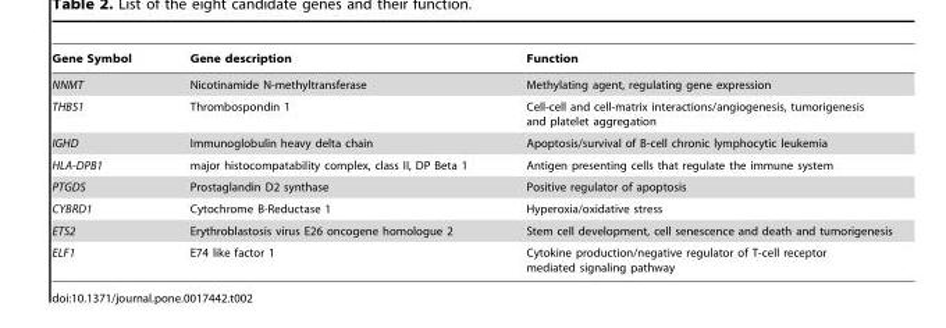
<table><thead><tr><td>Gene Symbol</td><td>Gene description</td><td>Function</td></tr></thead><tbody><tr><td>NNMT</td><td>Nicotinamide N-methyltransferase</td><td>Methylating agent, regulating gene expression</td></tr><tr><td>THBS1</td><td>Thrombospondin 1</td><td>Cell-cell and cell-matrix interactions/angiogenesis, tumorigenesis and platelet aggregation</td></tr><tr><td>IGHD</td><td>Immunoglobulin heavy delta chain</td><td>Apoptosis/survival of B-cell chronic lymphocytic leukemia</td></tr><tr><td>HLA-DPB1</td><td>major histocompatability complex, class II, DP Beta 1</td><td>Antigen presenting cells that regulate the immune system</td></tr><tr><td>PTGDS</td><td>Prostaglandin D2 synthase</td><td>Positive regulator of apoptosis</td></tr><tr><td>CYBRD1</td><td>Cytochrome B-Reductase 1</td><td>Hyperoxia/oxidative stress</td></tr><tr><td>ETS2</td><td>Erythroblastosis virus E26 oncogene homologue 2</td><td>Stem cell development, cell senescence and death and tumorigenesis</td></tr><tr><td>ELF1</td><td>E74 like factor 1</td><td>Cytokine production/negative regulator of T-cell receptor mediated signaling pathway</td></tr></tbody></table>